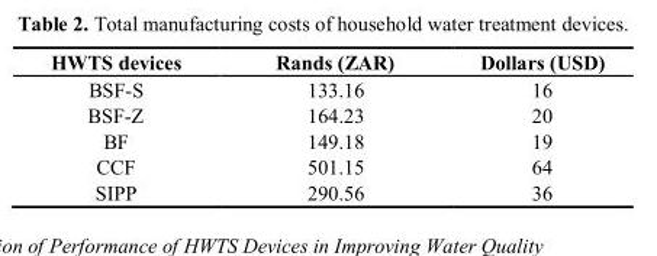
<table><thead><tr><td>HWTS devices</td><td>Rands (ZAR)</td><td>Dollars (USD)</td></tr></thead><tbody><tr><td>BSF-S</td><td>133.16</td><td>16</td></tr><tr><td>BSF-Z</td><td>164.23</td><td>20</td></tr><tr><td>BF</td><td>149.18</td><td>19</td></tr><tr><td>CCF</td><td>501.15</td><td>64</td></tr><tr><td>SIPP</td><td>290.56</td><td>36</td></tr></tbody></table>